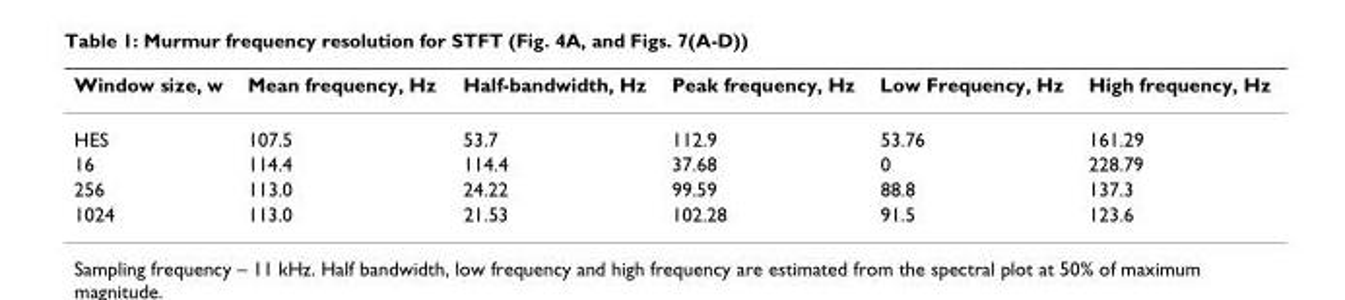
<table><thead><tr><td>Window size, w</td><td>Mean frequency, Hz</td><td>Half-bandwidth, Hz</td><td>Peak frequency, Hz</td><td>Low Frequency, Hz</td><td>High frequency, Hz</td></tr></thead><tbody><tr><td>HES</td><td>107.5</td><td>53.7</td><td>112.9</td><td>53.76</td><td>161.29</td></tr><tr><td>16</td><td>114.4</td><td>114.4</td><td>37.68</td><td>0</td><td>228.79</td></tr><tr><td>256</td><td>113.0</td><td>24.22</td><td>99.59</td><td>88.8</td><td>137.3</td></tr><tr><td>1024</td><td>113.0</td><td>21.53</td><td>102.28</td><td>91.5</td><td>123.6</td></tr></tbody></table>